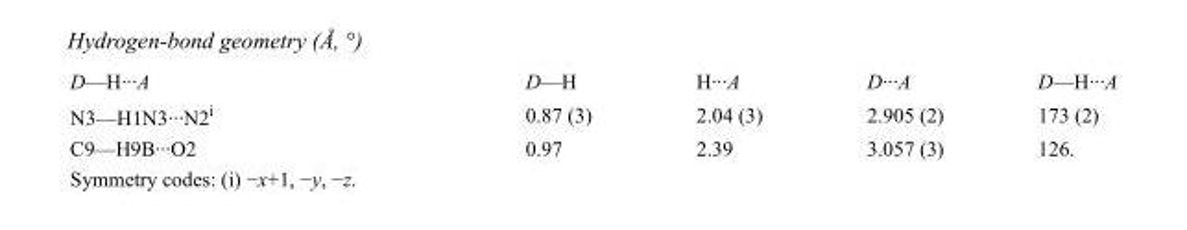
<table><tbody><tr><td>D—H···A</td><td>D—H</td><td>H···A</td><td>D···A</td><td>D—H···A</td></tr><tr><td>N3—H1N3···N2<sup>i</sup></td><td>0.87 (3)</td><td>2.04 (3)</td><td>2.905 (2)</td><td>173 (2)</td></tr><tr><td>C9—H9B···O2</td><td>0.97</td><td>2.39</td><td>3.057 (3)</td><td>126.</td></tr></tbody></table>